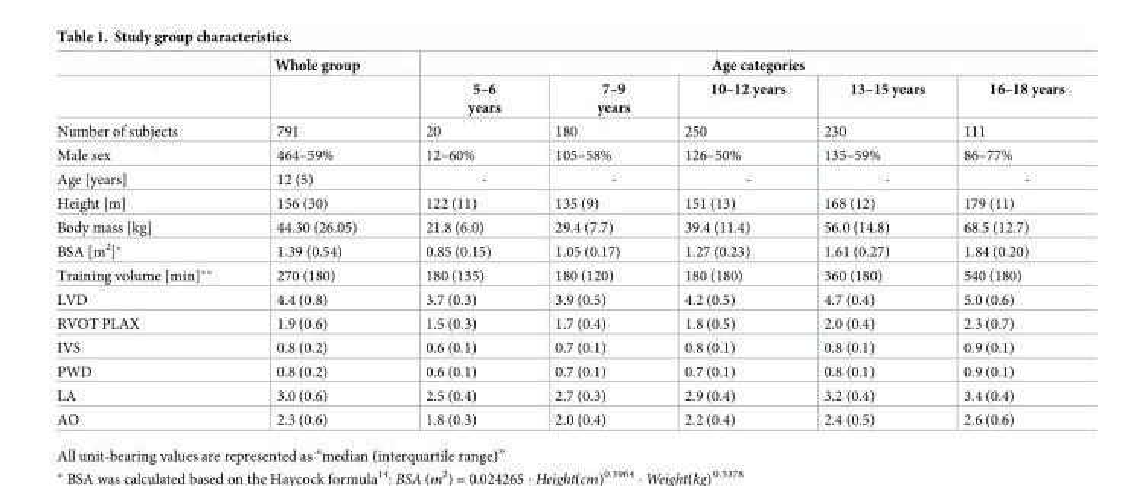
<table><thead><tr><td rowspan="2"></td><td rowspan="2">Whole group</td><td colspan="5">Age categories</td></tr><tr><td>5–6 years</td><td>7–9 years</td><td>10–12 years</td><td>13–15 years</td><td>16–18 years</td></tr></thead><tbody><tr><td>Number of subjects</td><td>791</td><td>20</td><td>180</td><td>250</td><td>230</td><td>111</td></tr><tr><td>Male sex</td><td>464–59%</td><td>12–60%</td><td>105–58%</td><td>126–50%</td><td>135–59%</td><td>86–77%</td></tr><tr><td>Age [years]</td><td>12 (5)</td><td>-</td><td>-</td><td>-</td><td>-</td><td>-</td></tr><tr><td>Height [m]</td><td>156 (30)</td><td>122 (11)</td><td>135 (9)</td><td>151 (13)</td><td>168 (12)</td><td>179 (11)</td></tr><tr><td>Body mass [kg]</td><td>44.30 (26.05)</td><td>21.8 (6.0)</td><td>29.4 (7.7)</td><td>39.4 (11.4)</td><td>56.0 (14.8)</td><td>68.5 (12.7)</td></tr><tr><td>BSA [m<sup>2</sup>]*</td><td>1.39 (0.54)</td><td>0.85 (0.15)</td><td>1.05 (0.17)</td><td>1.27 (0.23)</td><td>1.61 (0.27)</td><td>1.84 (0.20)</td></tr><tr><td>Training volume [min]**</td><td>270 (180)</td><td>180 (135)</td><td>180 (120)</td><td>180 (180)</td><td>360 (180)</td><td>540 (180)</td></tr><tr><td>LVD</td><td>4.4 (0.8)</td><td>3.7 (0.3)</td><td>3.9 (0.5)</td><td>4.2 (0.5)</td><td>4.7 (0.4)</td><td>5.0 (0.6)</td></tr><tr><td>RVOT PLAX</td><td>1.9 (0.6)</td><td>1.5 (0.3)</td><td>1.7 (0.4)</td><td>1.8 (0.5)</td><td>2.0 (0.4)</td><td>2.3 (0.7)</td></tr><tr><td>IVS</td><td>0.8 (0.2)</td><td>0.6 (0.1)</td><td>0.7 (0.1)</td><td>0.8 (0.1)</td><td>0.8 (0.1)</td><td>0.9 (0.1)</td></tr><tr><td>PWD</td><td>0.8 (0.2)</td><td>0.6 (0.1)</td><td>0.7 (0.1)</td><td>0.7 (0.1)</td><td>0.8 (0.1)</td><td>0.9 (0.1)</td></tr><tr><td>LA</td><td>3.0 (0.6)</td><td>2.5 (0.4)</td><td>2.7 (0.3)</td><td>2.9 (0.4)</td><td>3.2 (0.4)</td><td>3.4 (0.4)</td></tr><tr><td>AO</td><td>2.3 (0.6)</td><td>1.8 (0.3)</td><td>2.0 (0.4)</td><td>2.2 (0.4)</td><td>2.4 (0.5)</td><td>2.6 (0.6)</td></tr></tbody></table>